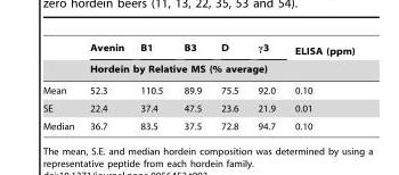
<table><thead><tr><td rowspan="2"></td><td>Avenin</td><td>B1</td><td>B3</td><td>D</td><td>γ3</td><td rowspan="2">ELISA (ppm)</td></tr><tr><td colspan="5">Hordein by Relative MS (% average)</td></tr></thead><tbody><tr><td>Mean</td><td>52.3</td><td>110.5</td><td>89.9</td><td>75.5</td><td>92.0</td><td>0.10</td></tr><tr><td>SE</td><td>22.4</td><td>37.4</td><td>47.5</td><td>23.6</td><td>21.9</td><td>0.01</td></tr><tr><td>Median</td><td>36.7</td><td>83.5</td><td>37.5</td><td>72.8</td><td>94.7</td><td>0.10</td></tr></tbody></table>